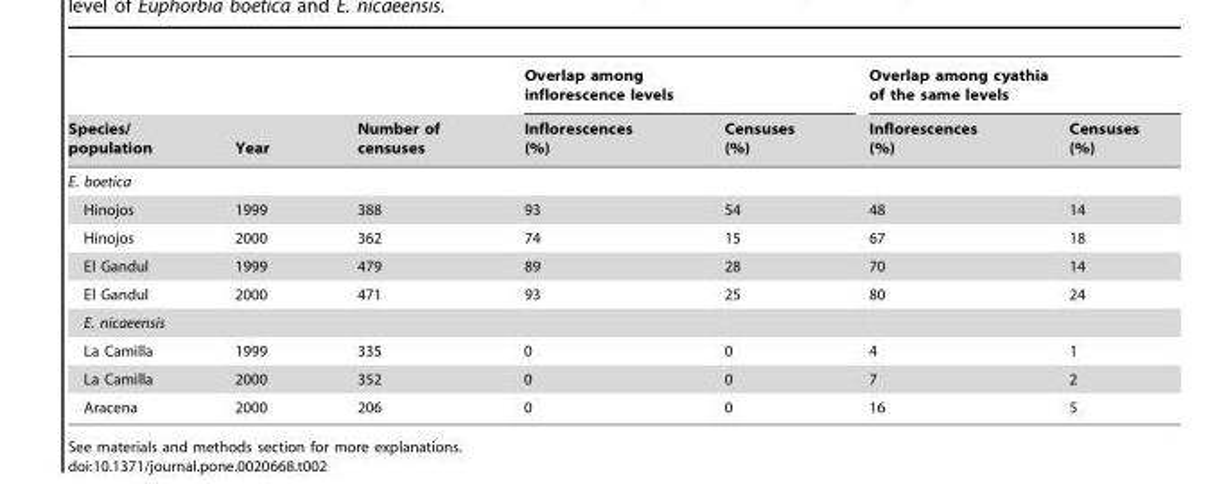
<table><thead><tr><td rowspan="2">Species/ population</td><td rowspan="2">Year</td><td rowspan="2">Number of censuses</td><td colspan="2">Overlap among inflorescence levels</td><td colspan="2">Overlap among cyathia of the same levels</td></tr><tr><td>Inflorescences (%)</td><td>Censuses (%)</td><td>Inflorescences (%)</td><td>Censuses (%)</td></tr></thead><tbody><tr><td colspan="7">E. boetica</td></tr><tr><td>Hinojos</td><td>1999</td><td>388</td><td>93</td><td>54</td><td>48</td><td>14</td></tr><tr><td>Hinojos</td><td>2000</td><td>362</td><td>74</td><td>15</td><td>67</td><td>18</td></tr><tr><td>El Gandul</td><td>1999</td><td>479</td><td>89</td><td>28</td><td>70</td><td>14</td></tr><tr><td>El Gandul</td><td>2000</td><td>471</td><td>93</td><td>25</td><td>80</td><td>24</td></tr><tr><td colspan="7">E. nicaeensis</td></tr><tr><td>La Camilla</td><td>1999</td><td>335</td><td>0</td><td>0</td><td>4</td><td>1</td></tr><tr><td>La Camilla</td><td>2000</td><td>352</td><td>0</td><td>0</td><td>7</td><td>2</td></tr><tr><td>Aracena</td><td>2000</td><td>206</td><td>0</td><td>0</td><td>16</td><td>5</td></tr></tbody></table>